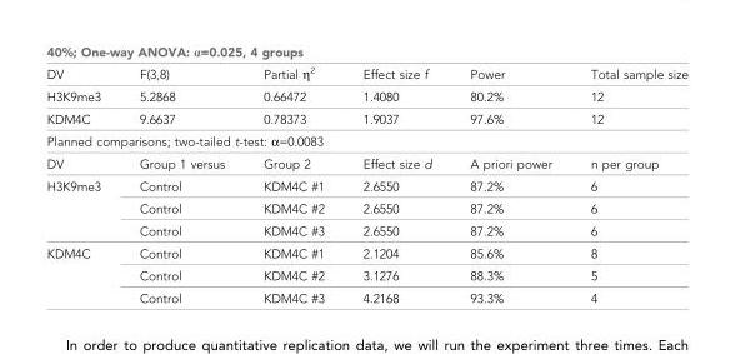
<table><thead><tr><td colspan="6">40%; One-way ANOVA: α=0.025, 4 groups</td></tr><tr><td>DV</td><td>F(3,8)</td><td>Partial η<sup>2</sup></td><td>Effect size f</td><td>Power</td><td>Total sample size</td></tr></thead><tbody><tr><td>H3K9me3</td><td>5.2868</td><td>0.66472</td><td>1.4080</td><td>80.2%</td><td>12</td></tr><tr><td>KDM4C</td><td>9.6637</td><td>0.78373</td><td>1.9037</td><td>97.6%</td><td>12</td></tr><tr><td colspan="6">Planned comparisons; two-tailed t-test: α=0.0083</td></tr><tr><td>DV</td><td>Group 1 versus</td><td>Group 2</td><td>Effect size d</td><td>A priori power</td><td>n per group</td></tr><tr><td rowspan="3">H3K9me3</td><td>Control</td><td>KDM4C #1</td><td>2.6550</td><td>87.2%</td><td>6</td></tr><tr><td>Control</td><td>KDM4C #2</td><td>2.6550</td><td>87.2%</td><td>6</td></tr><tr><td>Control</td><td>KDM4C #3</td><td>2.6550</td><td>87.2%</td><td>6</td></tr><tr><td rowspan="3">KDM4C</td><td>Control</td><td>KDM4C #1</td><td>2.1204</td><td>85.6%</td><td>8</td></tr><tr><td>Control</td><td>KDM4C #2</td><td>3.1276</td><td>88.3%</td><td>5</td></tr><tr><td>Control</td><td>KDM4C #3</td><td>4.2168</td><td>93.3%</td><td>4</td></tr></tbody></table>